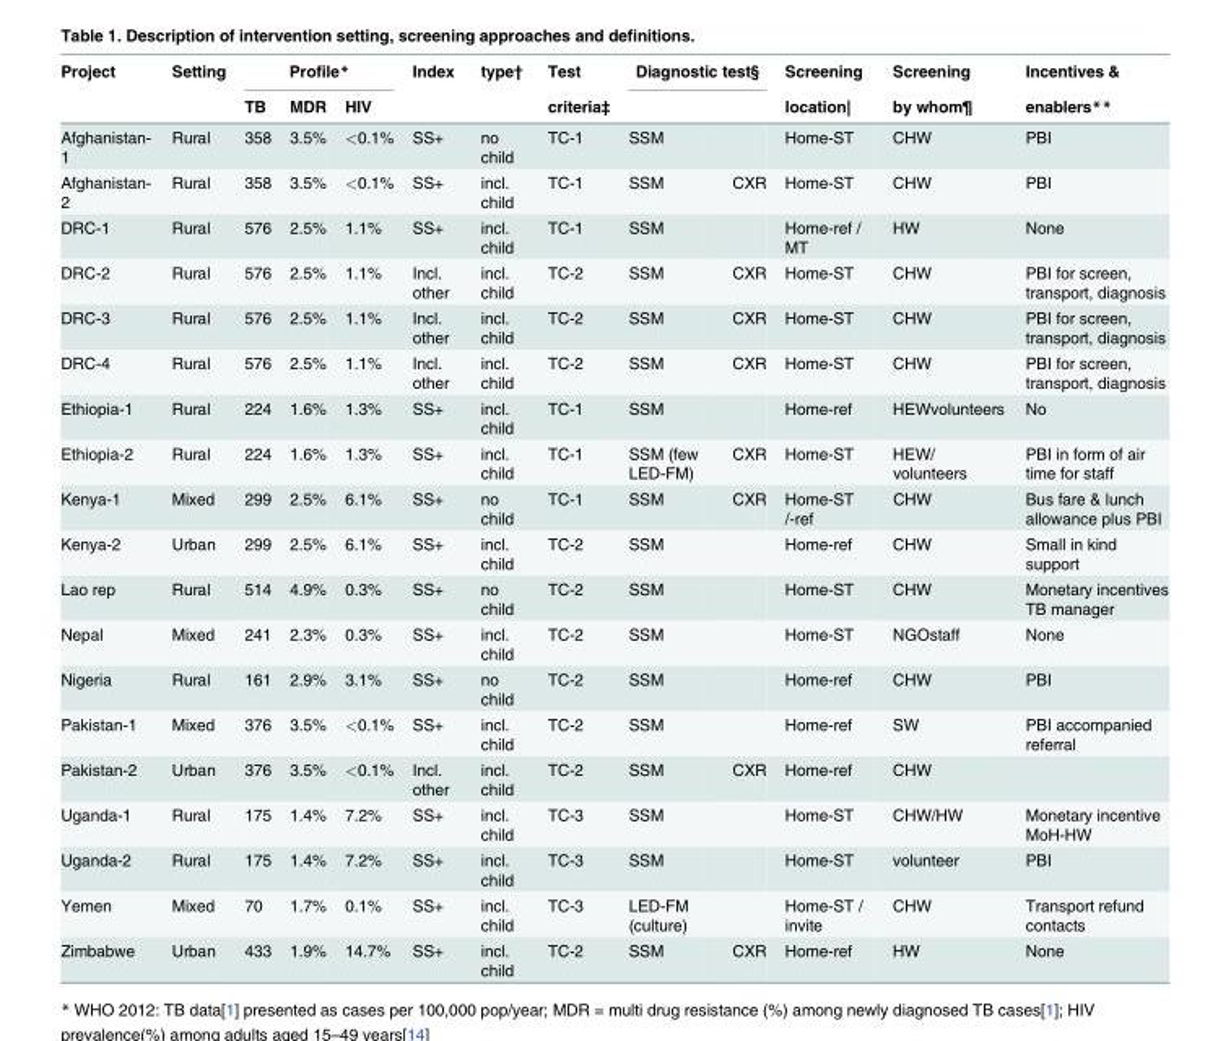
<table><thead><tr><td rowspan="2">Project</td><td rowspan="2">Setting</td><td colspan="3">Profile*</td><td rowspan="2">Index</td><td rowspan="2">type†</td><td rowspan="2">Test criteria‡</td><td colspan="2">Diagnostic test§</td><td rowspan="2">Screening location|</td><td rowspan="2">Screening by whom¶</td><td rowspan="2">Incentives &amp; enablers**</td></tr><tr><td>TB</td><td>MDR</td><td>HIV</td><td></td><td></td></tr></thead><tbody><tr><td>Afghanistan- 1</td><td>Rural</td><td>358</td><td>3.5%</td><td>&lt;0.1%</td><td>SS+</td><td>no child</td><td>TC-1</td><td>SSM</td><td></td><td>Home-ST</td><td>CHW</td><td>PBI</td></tr><tr><td>Afghanistan- 2</td><td>Rural</td><td>358</td><td>3.5%</td><td>&lt;0.1%</td><td>SS+</td><td>incl. child</td><td>TC-1</td><td>SSM</td><td>CXR</td><td>Home-ST</td><td>CHW</td><td>PBI</td></tr><tr><td>DRC-1</td><td>Rural</td><td>576</td><td>2.5%</td><td>1.1%</td><td>SS+</td><td>incl. child</td><td>TC-1</td><td>SSM</td><td></td><td>Home-ref / MT</td><td>HW</td><td>None</td></tr><tr><td>DRC-2</td><td>Rural</td><td>576</td><td>2.5%</td><td>1.1%</td><td>Incl. other</td><td>incl. child</td><td>TC-2</td><td>SSM</td><td>CXR</td><td>Home-ST</td><td>CHW</td><td>PBI for screen, transport, diagnosis</td></tr><tr><td>DRC-3</td><td>Rural</td><td>576</td><td>2.5%</td><td>1.1%</td><td>Incl. other</td><td>incl. child</td><td>TC-2</td><td>SSM</td><td>CXR</td><td>Home-ST</td><td>CHW</td><td>PBI for screen, transport, diagnosis</td></tr><tr><td>DRC-4</td><td>Rural</td><td>576</td><td>2.5%</td><td>1.1%</td><td>Incl. other</td><td>incl. child</td><td>TC-2</td><td>SSM</td><td>CXR</td><td>Home-ST</td><td>CHW</td><td>PBI for screen, transport, diagnosis</td></tr><tr><td>Ethiopia-1</td><td>Rural</td><td>224</td><td>1.6%</td><td>1.3%</td><td>SS+</td><td>incl. child</td><td>TC-1</td><td>SSM</td><td></td><td>Home-ref</td><td>HEWvolunteers</td><td>No</td></tr><tr><td>Ethiopia-2</td><td>Rural</td><td>224</td><td>1.6%</td><td>1.3%</td><td>SS+</td><td>incl. child</td><td>TC-1</td><td>SSM (few LED-FM)</td><td>CXR</td><td>Home-ST</td><td>HEW/ volunteers</td><td>PBI in form of air time for staff</td></tr><tr><td>Kenya-1</td><td>Mixed</td><td>299</td><td>2.5%</td><td>6.1%</td><td>SS+</td><td>no child</td><td>TC-1</td><td>SSM</td><td>CXR</td><td>Home-ST /-ref</td><td>CHW</td><td>Bus fare &amp; lunch allowance plus PBI</td></tr><tr><td>Kenya-2</td><td>Urban</td><td>299</td><td>2.5%</td><td>6.1%</td><td>SS+</td><td>incl. child</td><td>TC-2</td><td>SSM</td><td></td><td>Home-ref</td><td>CHW</td><td>Small in kind support</td></tr><tr><td>Lao rep</td><td>Rural</td><td>514</td><td>4.9%</td><td>0.3%</td><td>SS+</td><td>no child</td><td>TC-2</td><td>SSM</td><td></td><td>Home-ST</td><td>CHW</td><td>Monetary incentives TB manager</td></tr><tr><td>Nepal</td><td>Mixed</td><td>241</td><td>2.3%</td><td>0.3%</td><td>SS+</td><td>incl. child</td><td>TC-2</td><td>SSM</td><td></td><td>Home-ST</td><td>NGOstaff</td><td>None</td></tr><tr><td>Nigeria</td><td>Rural</td><td>161</td><td>2.9%</td><td>3.1%</td><td>SS+</td><td>no child</td><td>TC-2</td><td>SSM</td><td></td><td>Home-ref</td><td>CHW</td><td>PBI</td></tr><tr><td>Pakistan-1</td><td>Mixed</td><td>376</td><td>3.5%</td><td>&lt;0.1%</td><td>SS+</td><td>incl. child</td><td>TC-2</td><td>SSM</td><td></td><td>Home-ref</td><td>SW</td><td>PBI accompanied referral</td></tr><tr><td>Pakistan-2</td><td>Urban</td><td>376</td><td>3.5%</td><td>&lt;0.1%</td><td>Incl. other</td><td>incl. child</td><td>TC-2</td><td>SSM</td><td>CXR</td><td>Home-ref</td><td>CHW</td><td></td></tr><tr><td>Uganda-1</td><td>Rural</td><td>175</td><td>1.4%</td><td>7.2%</td><td>SS+</td><td>incl. child</td><td>TC-3</td><td>SSM</td><td></td><td>Home-ST</td><td>CHW/HW</td><td>Monetary incentive MoH-HW</td></tr><tr><td>Uganda-2</td><td>Rural</td><td>175</td><td>1.4%</td><td>7.2%</td><td>SS+</td><td>incl. child</td><td>TC-3</td><td>SSM</td><td></td><td>Home-ST</td><td>volunteer</td><td>PBI</td></tr><tr><td>Yemen</td><td>Mixed</td><td>70</td><td>1.7%</td><td>0.1%</td><td>SS+</td><td>incl. child</td><td>TC-3</td><td>LED-FM (culture)</td><td></td><td>Home-ST / invite</td><td>CHW</td><td>Transport refund contacts</td></tr><tr><td>Zimbabwe</td><td>Urban</td><td>433</td><td>1.9%</td><td>14.7%</td><td>SS+</td><td>incl. child</td><td>TC-2</td><td>SSM</td><td>CXR</td><td>Home-ref</td><td>HW</td><td>None</td></tr></tbody></table>